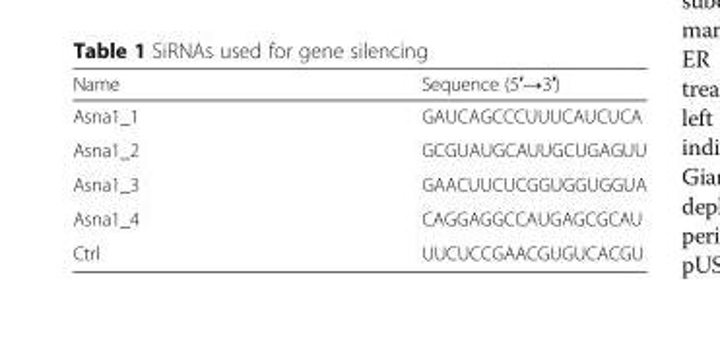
<table><thead><tr><td>Name</td><td>Sequence (5′→3′)</td></tr></thead><tbody><tr><td>Asna1_1</td><td>GAUCAGCCCUUUCAUCUCA</td></tr><tr><td>Asna1_2</td><td>GCGUAUGCAUUGCUGAGUU</td></tr><tr><td>Asna1_3</td><td>GAACUUCUCGGUGGUGGUA</td></tr><tr><td>Asna1_4</td><td>CAGGAGGCCAUGAGCGCAU</td></tr><tr><td>Ctrl</td><td>UUCUCCGAACGUGUCACGU</td></tr></tbody></table>